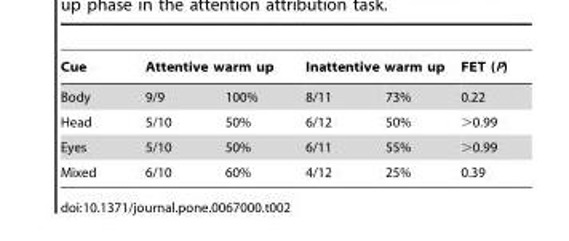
<table><thead><tr><td rowspan="2">Cue Body</td><td colspan="2">Attentive warm up</td><td colspan="2">Inattentive warm up</td><td rowspan="2">FET (P) 0.22</td></tr><tr><td>9/9</td><td>100%</td><td>8/11</td><td>73%</td></tr></thead><tbody><tr><td>Head</td><td>5/10</td><td>50%</td><td>6/12</td><td>50%</td><td>&gt;0.99</td></tr><tr><td>Eyes</td><td>5/10</td><td>50%</td><td>6/11</td><td>55%</td><td>&gt;0.99</td></tr><tr><td>Mixed</td><td>6/10</td><td>60%</td><td>4/12</td><td>25%</td><td>0.39</td></tr></tbody></table>